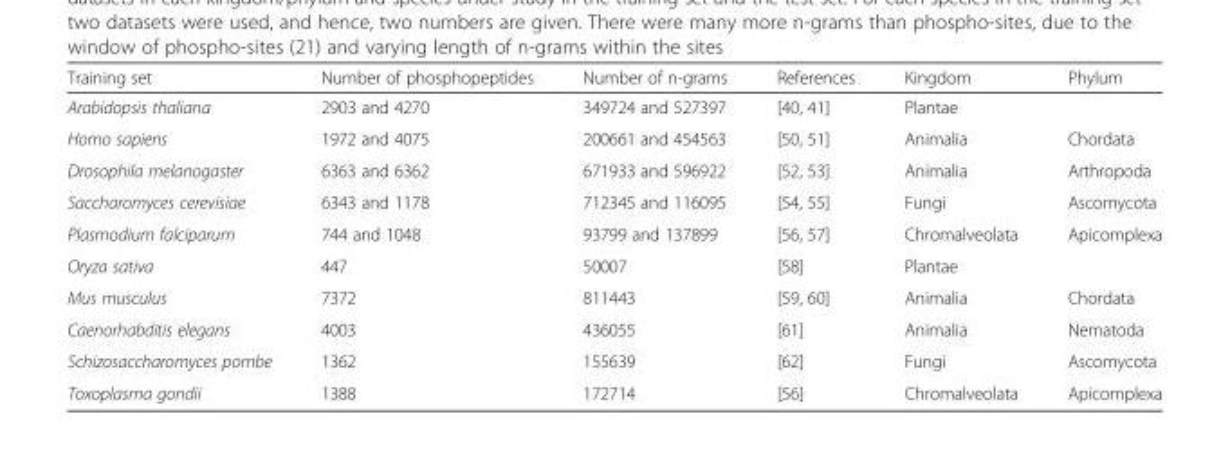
<table><thead><tr><td>Training set</td><td>Number of phosphopeptides</td><td>Number of n-grams</td><td>References</td><td>Kingdom</td><td>Phylum</td></tr></thead><tbody><tr><td>Arabidopsis thaliana</td><td>2903 and 4270</td><td>349724 and 527397</td><td>[40, 41]</td><td>Plantae</td><td></td></tr><tr><td>Homo sapiens</td><td>1972 and 4075</td><td>200661 and 454563</td><td>[50, 51]</td><td>Animalia</td><td>Chordata</td></tr><tr><td>Drosophila melanogaster</td><td>6363 and 6362</td><td>671933 and 596922</td><td>[52, 53]</td><td>Animalia</td><td>Arthropoda</td></tr><tr><td>Saccharomyces cerevisiae</td><td>6343 and 1178</td><td>712345 and 116095</td><td>[54, 55]</td><td>Fungi</td><td>Ascomycota</td></tr><tr><td>Plasmodium falciparum</td><td>744 and 1048</td><td>93799 and 137899</td><td>[56, 57]</td><td>Chromalveolata</td><td>Apicomplexa</td></tr><tr><td>Oryza sativa</td><td>447</td><td>50007</td><td>[58]</td><td>Plantae</td><td></td></tr><tr><td>Mus musculus</td><td>7372</td><td>811443</td><td>[59, 60]</td><td>Animalia</td><td>Chordata</td></tr><tr><td>Caenorhabditis elegans</td><td>4003</td><td>436055</td><td>[61]</td><td>Animalia</td><td>Nematoda</td></tr><tr><td>Schizosaccharomyces pombe</td><td>1362</td><td>155639</td><td>[62]</td><td>Fungi</td><td>Ascomycota</td></tr><tr><td>Toxoplasma gondii</td><td>1388</td><td>172714</td><td>[56]</td><td>Chromalveolata</td><td>Apicomplexa</td></tr></tbody></table>